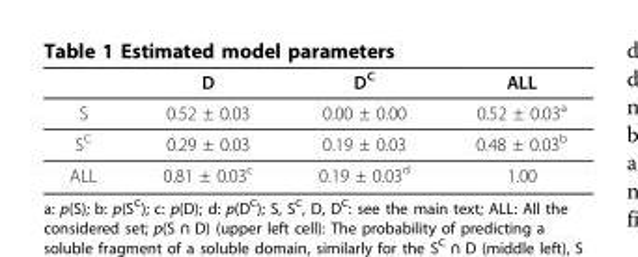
<table><thead><tr><td></td><td>D</td><td>D<sup>C</sup></td><td>ALL</td></tr></thead><tbody><tr><td>S</td><td>0.52 ± 0.03</td><td>0.00 ± 0.00</td><td>0.52 ± 0.03<sup>a</sup></td></tr><tr><td>S<sup>C</sup></td><td>0.29 ± 0.03</td><td>0.19 ± 0.03</td><td>0.48 ± 0.03<sup>b</sup></td></tr><tr><td>ALL</td><td>0.81 ± 0.03<sup>c</sup></td><td>0.19 ± 0.03<sup>d</sup></td><td>1.00</td></tr></tbody></table>